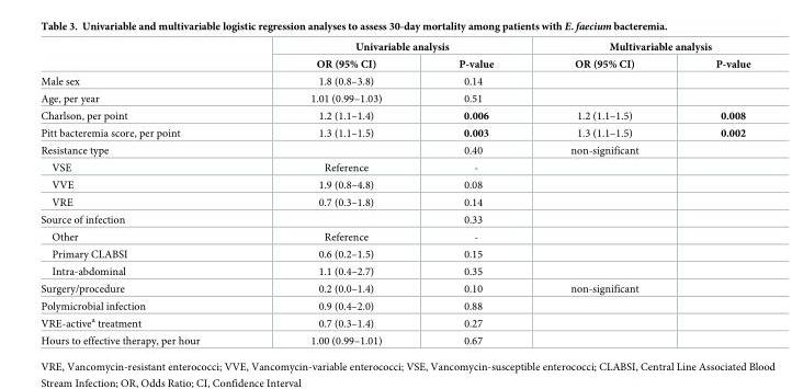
<table><thead><tr><td rowspan="2"></td><td colspan="2">Univariable analysis</td><td colspan="2">Multivariable analysis</td></tr><tr><td>OR (95% CI)</td><td>P-value</td><td>OR (95% CI)</td><td>P-value</td></tr></thead><tbody><tr><td>Male sex</td><td>1.8 (0.8–3.8)</td><td>0.14</td><td></td><td></td></tr><tr><td>Age, per year</td><td>1.01 (0.99–1.03)</td><td>0.51</td><td></td><td></td></tr><tr><td>Charlson, per point</td><td>1.2 (1.1–1.4)</td><td>0.006</td><td>1.2 (1.1–1.5)</td><td>0.008</td></tr><tr><td>Pitt bacteremia score, per point</td><td>1.3 (1.1–1.5)</td><td>0.003</td><td>1.3 (1.1–1.5)</td><td>0.002</td></tr><tr><td>Resistance type</td><td></td><td>0.40</td><td>non-significant</td><td></td></tr><tr><td>VSE</td><td>Reference</td><td>-</td><td></td><td></td></tr><tr><td>VVE</td><td>1.9 (0.8–4.8)</td><td>0.08</td><td></td><td></td></tr><tr><td>VRE</td><td>0.7 (0.3–1.8)</td><td>0.14</td><td></td><td></td></tr><tr><td>Source of infection</td><td></td><td>0.33</td><td></td><td></td></tr><tr><td>Other</td><td>Reference</td><td>-</td><td></td><td></td></tr><tr><td>Primary CLABSI</td><td>0.6 (0.2–1.5)</td><td>0.15</td><td></td><td></td></tr><tr><td>Intra-abdominal</td><td>1.1 (0.4–2.7)</td><td>0.35</td><td></td><td></td></tr><tr><td>Surgery/procedure</td><td>0.2 (0.0–1.4)</td><td>0.10</td><td>non-significant</td><td></td></tr><tr><td>Polymicrobial infection</td><td>0.9 (0.4–2.0)</td><td>0.88</td><td></td><td></td></tr><tr><td>VRE-active<sup>a</sup> treatment</td><td>0.7 (0.3–1.4)</td><td>0.27</td><td></td><td></td></tr><tr><td>Hours to effective therapy, per hour</td><td>1.00 (0.99–1.01)</td><td>0.67</td><td></td><td></td></tr></tbody></table>